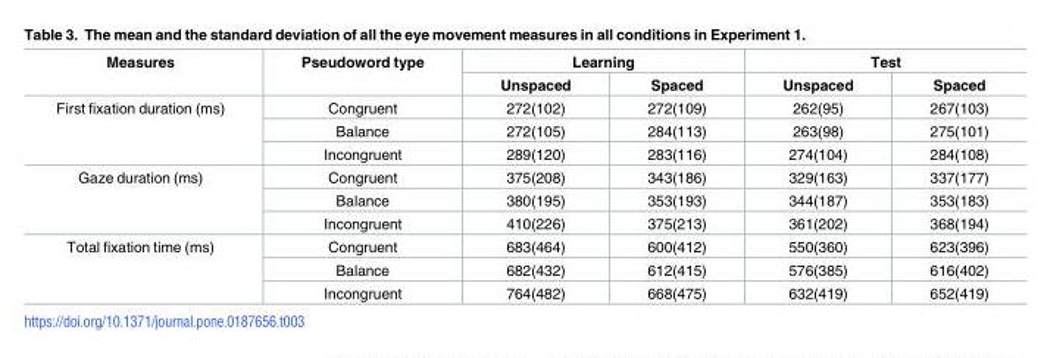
<table><thead><tr><td rowspan="2">Measures</td><td rowspan="2">Pseudoword type</td><td colspan="2">Learning</td><td colspan="2">Test</td></tr><tr><td>Unspaced</td><td>Spaced</td><td>Unspaced</td><td>Spaced</td></tr></thead><tbody><tr><td rowspan="3">First fixation duration (ms)</td><td>Congruent</td><td>272(102)</td><td>272(109)</td><td>262(95)</td><td>267(103)</td></tr><tr><td>Balance</td><td>272(105)</td><td>284(113)</td><td>263(98)</td><td>275(101)</td></tr><tr><td>Incongruent</td><td>289(120)</td><td>283(116)</td><td>274(104)</td><td>284(108)</td></tr><tr><td rowspan="3">Gaze duration (ms)</td><td>Congruent</td><td>375(208)</td><td>343(186)</td><td>329(163)</td><td>337(177)</td></tr><tr><td>Balance</td><td>380(195)</td><td>353(193)</td><td>344(187)</td><td>353(183)</td></tr><tr><td>Incongruent</td><td>410(226)</td><td>375(213)</td><td>361(202)</td><td>368(194)</td></tr><tr><td rowspan="3">Total fixation time (ms)</td><td>Congruent</td><td>683(464)</td><td>600(412)</td><td>550(360)</td><td>623(396)</td></tr><tr><td>Balance</td><td>682(432)</td><td>612(415)</td><td>576(385)</td><td>616(402)</td></tr><tr><td>Incongruent</td><td>764(482)</td><td>668(475)</td><td>632(419)</td><td>652(419)</td></tr></tbody></table>